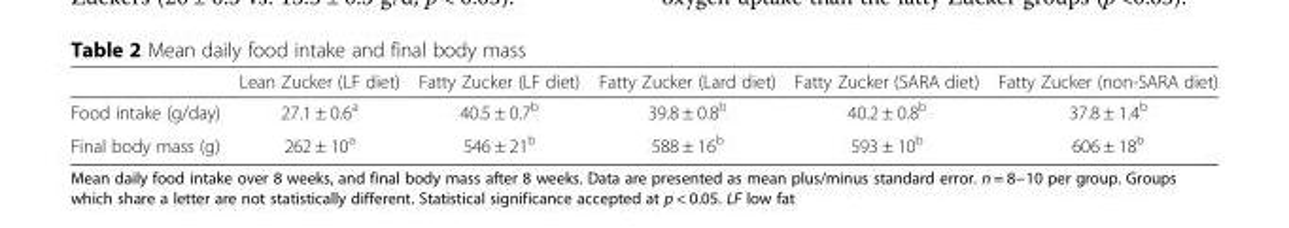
<table><thead><tr><td></td><td>Lean Zucker (LF diet)</td><td>Fatty Zucker (LF diet)</td><td>Fatty Zucker (Lard diet)</td><td>Fatty Zucker (SARA diet)</td><td>Fatty Zucker (non-SARA diet)</td></tr></thead><tbody><tr><td>Food intake (g/day)</td><td>27.1 ± 0.6<sup>a</sup></td><td>40.5 ± 0.7<sup>b</sup></td><td>39.8 ± 0.8<sup>b</sup></td><td>40.2 ± 0.8<sup>b</sup></td><td>37.8 ± 1.4<sup>b</sup></td></tr><tr><td>Final body mass (g)</td><td>262 ± 10<sup>a</sup></td><td>546 ± 21<sup>b</sup></td><td>588 ± 16<sup>b</sup></td><td>593 ± 10<sup>b</sup></td><td>606 ± 18<sup>b</sup></td></tr></tbody></table>